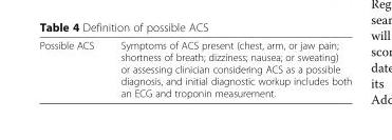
<table><tbody><tr><td>Possible ACS</td><td>Symptoms of ACS present (chest, arm, or jaw pain; shortness of breath; dizziness; nausea; or sweating) or assessing clinician considering ACS as a possible diagnosis, and initial diagnostic workup includes both an ECG and troponin measurement.</td></tr></tbody></table>